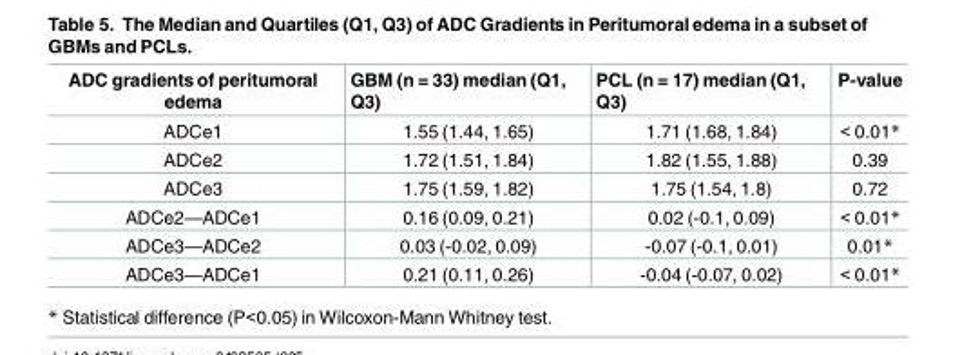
<table><thead><tr><td>ADC gradients of peritumoral edema</td><td>GBM (n = 33) median (Q1, Q3)</td><td>PCL (n = 17) median (Q1, Q3)</td><td>P-value</td></tr></thead><tbody><tr><td>ADCe1</td><td>1.55 (1.44, 1.65)</td><td>1.71 (1.68, 1.84)</td><td>&lt; 0.01*</td></tr><tr><td>ADCe2</td><td>1.72 (1.51, 1.84)</td><td>1.82 (1.55, 1.88)</td><td>0.39</td></tr><tr><td>ADCe3</td><td>1.75 (1.59, 1.82)</td><td>1.75 (1.54, 1.8)</td><td>0.72</td></tr><tr><td>ADCe2—ADCe1</td><td>0.16 (0.09, 0.21)</td><td>0.02 (-0.1, 0.09)</td><td>&lt; 0.01*</td></tr><tr><td>ADCe3—ADCe2</td><td>0.03 (-0.02, 0.09)</td><td>-0.07 (-0.1, 0.01)</td><td>0.01*</td></tr><tr><td>ADCe3—ADCe1</td><td>0.21 (0.11, 0.26)</td><td>-0.04 (-0.07, 0.02)</td><td>&lt; 0.01*</td></tr></tbody></table>